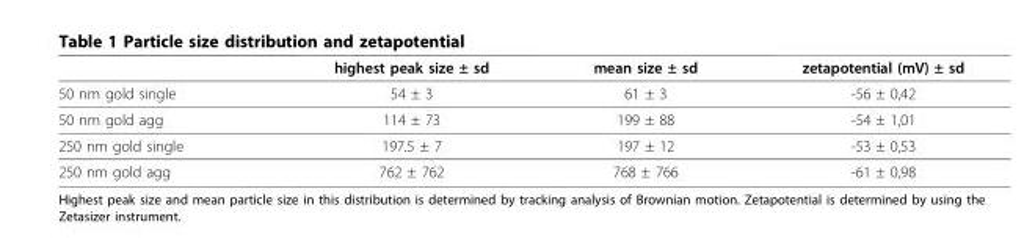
<table><thead><tr><td></td><td>highest peak size ± sd</td><td>mean size ± sd</td><td>zetapotential (mV) ± sd</td></tr></thead><tbody><tr><td>50 nm gold single</td><td>54 ± 3</td><td>61 ± 3</td><td>-56 ± 0,42</td></tr><tr><td>50 nm gold agg</td><td>114 ± 73</td><td>199 ± 88</td><td>-54 ± 1,01</td></tr><tr><td>250 nm gold single</td><td>197.5 ± 7</td><td>197 ± 12</td><td>-53 ± 0,53</td></tr><tr><td>250 nm gold agg</td><td>762 ± 762</td><td>768 ± 766</td><td>-61 ± 0,98</td></tr></tbody></table>